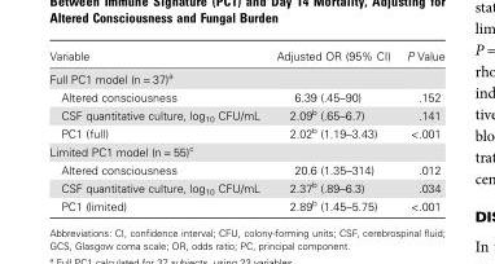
<table><thead><tr><td>Variable</td><td>Adjusted OR (95% CI)</td><td>P Value</td></tr></thead><tbody><tr><td colspan="3">Full PC1 model (n = 37)<sup>a</sup></td></tr><tr><td>Altered consciousness</td><td>6.39 (.45–90)</td><td>.152</td></tr><tr><td>CSF quantitative culture, log<sub>10</sub> CFU/mL</td><td>2.09<sup>b</sup> (.65–6.7)</td><td>.141</td></tr><tr><td>PC1 (full)</td><td>2.02<sup>b</sup> (1.19–3.43)</td><td>&lt;.001</td></tr><tr><td colspan="3">Limited PC1 model (n = 55)<sup>c</sup></td></tr><tr><td>Altered consciousness</td><td>20.6 (1.35–314)</td><td>.012</td></tr><tr><td>CSF quantitative culture, log<sub>10</sub> CFU/mL</td><td>2.37<sup>b</sup> (.89–6.3)</td><td>.034</td></tr><tr><td>PC1 (limited)</td><td>2.89<sup>b</sup> (1.45–5.75)</td><td>&lt;.001</td></tr></tbody></table>